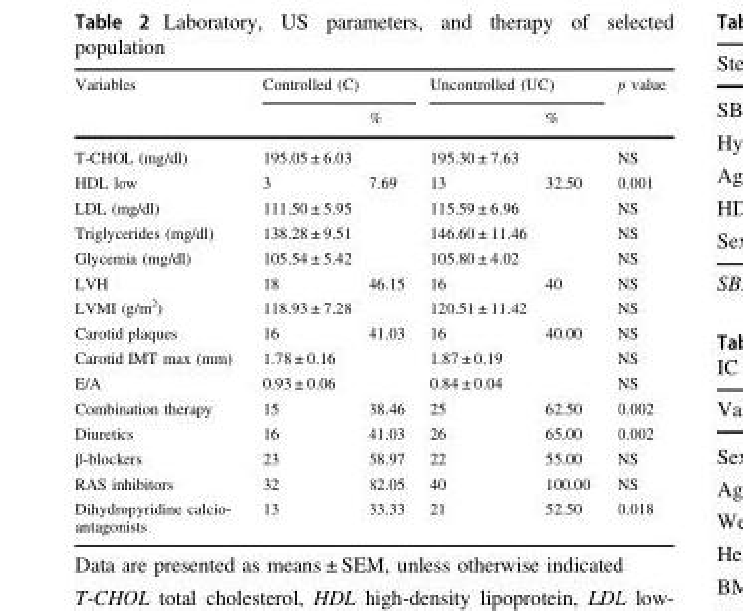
<table><thead><tr><td rowspan="2">Variables</td><td colspan="2">Controlled (C)</td><td colspan="2">Uncontrolled (UC)</td><td rowspan="2">p value</td></tr><tr><td></td><td>%</td><td></td><td>%</td></tr></thead><tbody><tr><td>T-CHOL (mg/dl)</td><td>195.05 ± 6.03</td><td></td><td>195.30 ± 7.63</td><td></td><td>NS</td></tr><tr><td>HDL low</td><td>3</td><td>7.69</td><td>13</td><td>32.50</td><td>0.001</td></tr><tr><td>LDL (mg/dl)</td><td>111.50 ± 5.95</td><td></td><td>115.59 ± 6.96</td><td></td><td>NS</td></tr><tr><td>Triglycerides (mg/dl)</td><td>138.28 ± 9.51</td><td></td><td>146.60 ± 11.46</td><td></td><td>NS</td></tr><tr><td>Glycemia (mg/dl)</td><td>105.54 ± 5.42</td><td></td><td>105.80 ± 4.02</td><td></td><td>NS</td></tr><tr><td>LVH</td><td>18</td><td>46.15</td><td>16</td><td>40</td><td>NS</td></tr><tr><td>LVMI (g/m<sup>2</sup>)</td><td>118.93 ± 7.28</td><td></td><td>120.51 ± 11.42</td><td></td><td>NS</td></tr><tr><td>Carotid plaques</td><td>16</td><td>41.03</td><td>16</td><td>40.00</td><td>NS</td></tr><tr><td>Carotid IMT max (mm)</td><td>1.78 ± 0.16</td><td></td><td>1.87 ± 0.19</td><td></td><td>NS</td></tr><tr><td>E/A</td><td>0.93 ± 0.06</td><td></td><td>0.84 ± 0.04</td><td></td><td>NS</td></tr><tr><td>Combination therapy</td><td>15</td><td>38.46</td><td>25</td><td>62.50</td><td>0.002</td></tr><tr><td>Diuretics</td><td>16</td><td>41.03</td><td>26</td><td>65.00</td><td>0.002</td></tr><tr><td>β-blockers</td><td>23</td><td>58.97</td><td>22</td><td>55.00</td><td>NS</td></tr><tr><td>RAS inhibitors</td><td>32</td><td>82.05</td><td>40</td><td>100.00</td><td>NS</td></tr><tr><td>Dihydropyridine calcio- antagonists</td><td>13</td><td>33.33</td><td>21</td><td>52.50</td><td>0.018</td></tr></tbody></table>